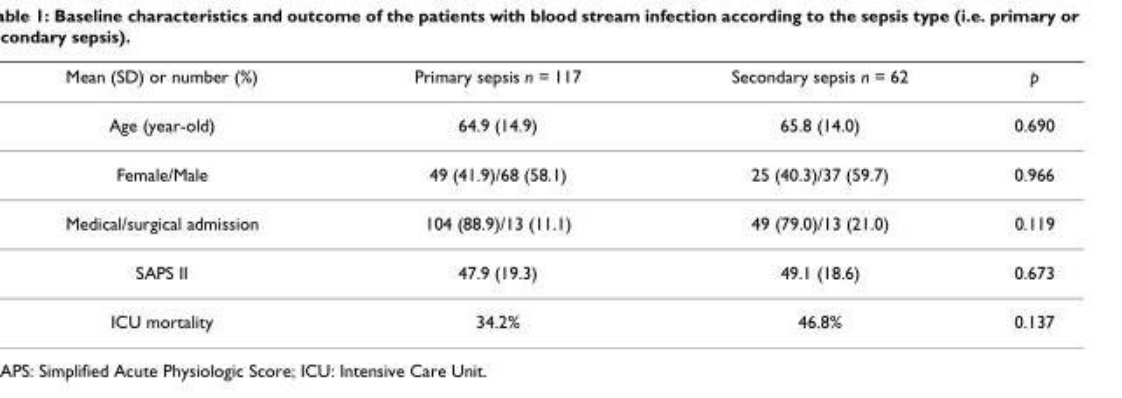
<table><thead><tr><td>Mean (SD) or number (%)</td><td>Primary sepsis n = 117</td><td>Secondary sepsis n = 62</td><td>p</td></tr></thead><tbody><tr><td>Age (year-old)</td><td>64.9 (14.9)</td><td>65.8 (14.0)</td><td>0.690</td></tr><tr><td>Female/Male</td><td>49 (41.9)/68 (58.1)</td><td>25 (40.3)/37 (59.7)</td><td>0.966</td></tr><tr><td>Medical/surgical admission</td><td>104 (88.9)/13 (11.1)</td><td>49 (79.0)/13 (21.0)</td><td>0.119</td></tr><tr><td>SAPS II</td><td>47.9 (19.3)</td><td>49.1 (18.6)</td><td>0.673</td></tr><tr><td>ICU mortality</td><td>34.2%</td><td>46.8%</td><td>0.137</td></tr></tbody></table>